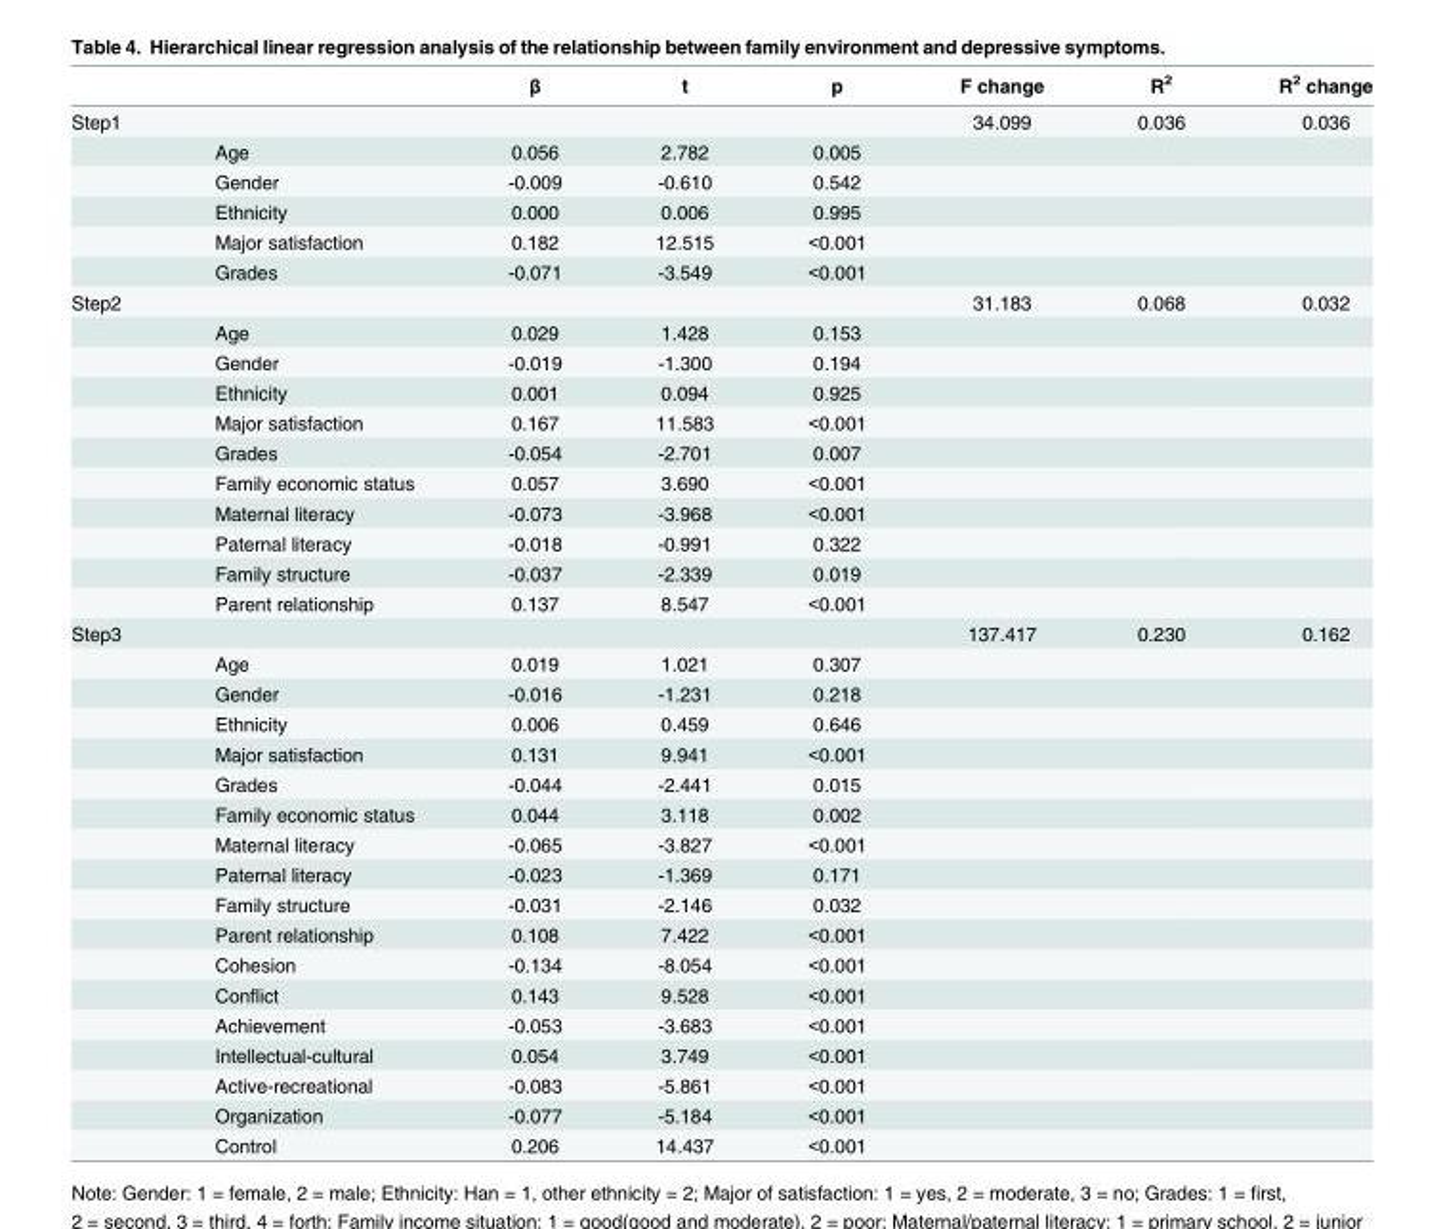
<table><thead><tr><td></td><td></td><td>β</td><td>t</td><td>p</td><td>F change</td><td>R<sup>2</sup></td><td>R<sup>2</sup> change</td></tr></thead><tbody><tr><td rowspan="6">Step1</td><td></td><td></td><td></td><td></td><td>34.099</td><td>0.036</td><td>0.036</td></tr><tr><td>Age</td><td>0.056</td><td>2.782</td><td>0.005</td><td></td><td></td><td></td></tr><tr><td>Gender</td><td>-0.009</td><td>-0.610</td><td>0.542</td><td></td><td></td><td></td></tr><tr><td>Ethnicity</td><td>0.000</td><td>0.006</td><td>0.995</td><td></td><td></td><td></td></tr><tr><td>Major satisfaction</td><td>0.182</td><td>12.515</td><td>&lt;0.001</td><td></td><td></td><td></td></tr><tr><td>Grades</td><td>-0.071</td><td>-3.549</td><td>&lt;0.001</td><td></td><td></td><td></td></tr><tr><td rowspan="11">Step2</td><td></td><td></td><td></td><td></td><td>31.183</td><td>0.068</td><td>0.032</td></tr><tr><td>Age</td><td>0.029</td><td>1.428</td><td>0.153</td><td></td><td></td><td></td></tr><tr><td>Gender</td><td>-0.019</td><td>-1.300</td><td>0.194</td><td></td><td></td><td></td></tr><tr><td>Ethnicity</td><td>0.001</td><td>0.094</td><td>0.925</td><td></td><td></td><td></td></tr><tr><td>Major satisfaction</td><td>0.167</td><td>11.583</td><td>&lt;0.001</td><td></td><td></td><td></td></tr><tr><td>Grades</td><td>-0.054</td><td>-2.701</td><td>0.007</td><td></td><td></td><td></td></tr><tr><td>Family economic status</td><td>0.057</td><td>3.690</td><td>&lt;0.001</td><td></td><td></td><td></td></tr><tr><td>Maternal literacy</td><td>-0.073</td><td>-3.968</td><td>&lt;0.001</td><td></td><td></td><td></td></tr><tr><td>Paternal literacy</td><td>-0.018</td><td>-0.991</td><td>0.322</td><td></td><td></td><td></td></tr><tr><td>Family structure</td><td>-0.037</td><td>-2.339</td><td>0.019</td><td></td><td></td><td></td></tr><tr><td>Parent relationship</td><td>0.137</td><td>8.547</td><td>&lt;0.001</td><td></td><td></td><td></td></tr><tr><td rowspan="18">Step3</td><td></td><td></td><td></td><td></td><td>137.417</td><td>0.230</td><td>0.162</td></tr><tr><td>Age</td><td>0.019</td><td>1.021</td><td>0.307</td><td></td><td></td><td></td></tr><tr><td>Gender</td><td>-0.016</td><td>-1.231</td><td>0.218</td><td></td><td></td><td></td></tr><tr><td>Ethnicity</td><td>0.006</td><td>0.459</td><td>0.646</td><td></td><td></td><td></td></tr><tr><td>Major satisfaction</td><td>0.131</td><td>9.941</td><td>&lt;0.001</td><td></td><td></td><td></td></tr><tr><td>Grades</td><td>-0.044</td><td>-2.441</td><td>0.015</td><td></td><td></td><td></td></tr><tr><td>Family economic status</td><td>0.044</td><td>3.118</td><td>0.002</td><td></td><td></td><td></td></tr><tr><td>Maternal literacy</td><td>-0.065</td><td>-3.827</td><td>&lt;0.001</td><td></td><td></td><td></td></tr><tr><td>Paternal literacy</td><td>-0.023</td><td>-1.369</td><td>0.171</td><td></td><td></td><td></td></tr><tr><td>Family structure</td><td>-0.031</td><td>-2.146</td><td>0.032</td><td></td><td></td><td></td></tr><tr><td>Parent relationship</td><td>0.108</td><td>7.422</td><td>&lt;0.001</td><td></td><td></td><td></td></tr><tr><td>Cohesion</td><td>-0.134</td><td>-8.054</td><td>&lt;0.001</td><td></td><td></td><td></td></tr><tr><td>Conflict</td><td>0.143</td><td>9.528</td><td>&lt;0.001</td><td></td><td></td><td></td></tr><tr><td>Achievement</td><td>-0.053</td><td>-3.683</td><td>&lt;0.001</td><td></td><td></td><td></td></tr><tr><td>Intellectual-cultural</td><td>0.054</td><td>3.749</td><td>&lt;0.001</td><td></td><td></td><td></td></tr><tr><td>Active-recreational</td><td>-0.083</td><td>-5.861</td><td>&lt;0.001</td><td></td><td></td><td></td></tr><tr><td>Organization</td><td>-0.077</td><td>-5.184</td><td>&lt;0.001</td><td></td><td></td><td></td></tr><tr><td>Control</td><td>0.206</td><td>14.437</td><td>&lt;0.001</td><td></td><td></td><td></td></tr></tbody></table>